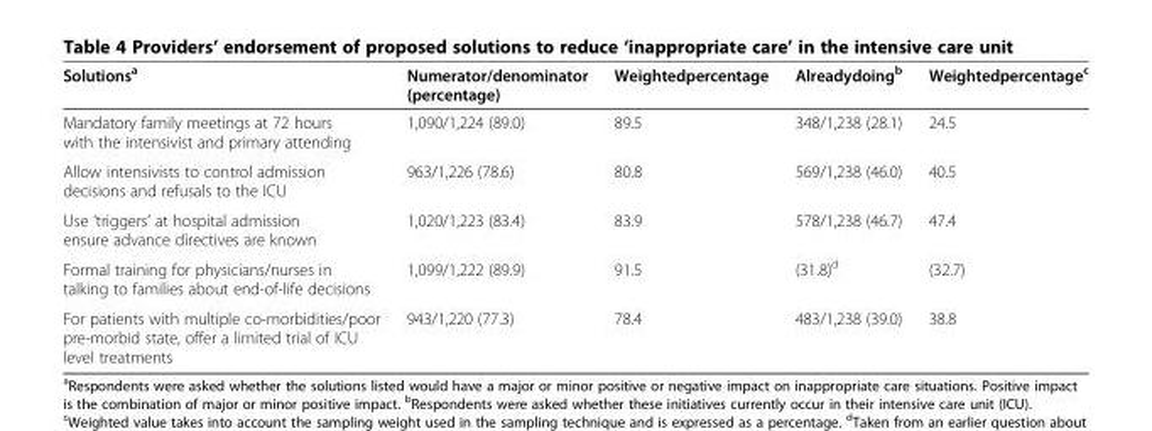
<table><thead><tr><td>Solutions<sup>a</sup></td><td>Numerator/denominator (percentage)</td><td>Weightedpercentage</td><td>Alreadydoing<sup>b</sup></td><td>Weightedpercentage<sup>c</sup></td></tr></thead><tbody><tr><td>Mandatory family meetings at 72 hours with the intensivist and primary attending</td><td>1,090/1,224 (89.0)</td><td>89.5</td><td>348/1,238 (28.1)</td><td>24.5</td></tr><tr><td>Allow intensivists to control admission decisions and refusals to the ICU</td><td>963/1,226 (78.6)</td><td>80.8</td><td>569/1,238 (46.0)</td><td>40.5</td></tr><tr><td>Use ‘triggers’ at hospital admission ensure advance directives are known</td><td>1,020/1,223 (83.4)</td><td>83.9</td><td>578/1,238 (46.7)</td><td>47.4</td></tr><tr><td>Formal training for physicians/nurses in talking to families about end-of-life decisions</td><td>1,099/1,222 (89.9)</td><td>91.5</td><td>(31.8)<sup>d</sup></td><td>(32.7)</td></tr><tr><td>For patients with multiple co-morbidities/poor pre-morbid state, offer a limited trial of ICU level treatments</td><td>943/1,220 (77.3)</td><td>78.4</td><td>483/1,238 (39.0)</td><td>38.8</td></tr></tbody></table>